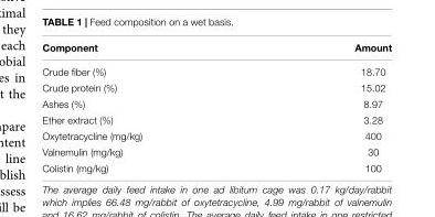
<table><thead><tr><td>Component</td><td>Amount</td></tr></thead><tbody><tr><td>Crude fiber (%)</td><td>18.70</td></tr><tr><td>Crude protein (%)</td><td>15.02</td></tr><tr><td>Ashes (%)</td><td>8.97</td></tr><tr><td>Ether extract (%)</td><td>3.28</td></tr><tr><td>Oxytetracycline (mg/kg)</td><td>400</td></tr><tr><td>Valnemulin (mg/kg)</td><td>30</td></tr><tr><td>Colistin (mg/kg)</td><td>100</td></tr></tbody></table>